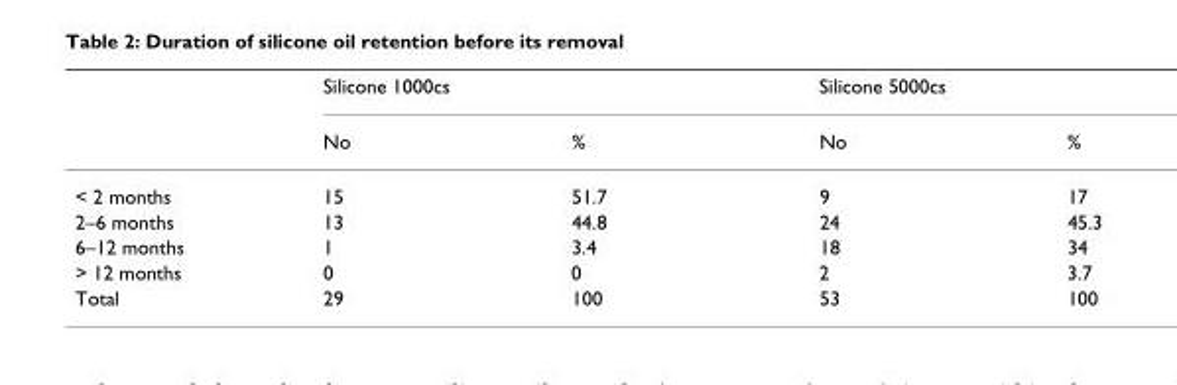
<table><thead><tr><td rowspan="2"></td><td colspan="2">Silicone 1000cs</td><td colspan="2">Silicone 5000cs</td></tr><tr><td>No</td><td>%</td><td>No</td><td>%</td></tr></thead><tbody><tr><td>&lt; 2 months</td><td>15</td><td>51.7</td><td>9</td><td>17</td></tr><tr><td>2–6 months</td><td>13</td><td>44.8</td><td>24</td><td>45.3</td></tr><tr><td>6–12 months</td><td>1</td><td>3.4</td><td>18</td><td>34</td></tr><tr><td>&gt; 12 months</td><td>0</td><td>0</td><td>2</td><td>3.7</td></tr><tr><td>Total</td><td>29</td><td>100</td><td>53</td><td>100</td></tr></tbody></table>